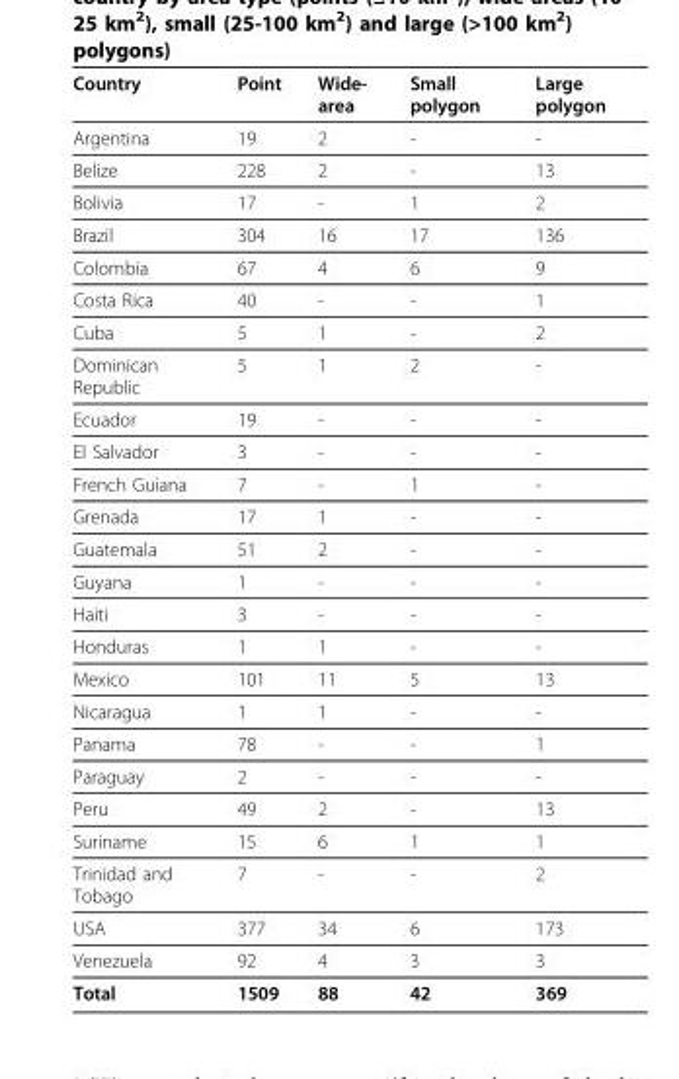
<table><thead><tr><td>Country</td><td>Point</td><td>Wide- area</td><td>Small polygon</td><td>Large polygon</td></tr></thead><tbody><tr><td>Argentina</td><td>19</td><td>2</td><td>-</td><td>-</td></tr><tr><td>Belize</td><td>228</td><td>2</td><td>-</td><td>13</td></tr><tr><td>Bolivia</td><td>17</td><td>-</td><td>1</td><td>2</td></tr><tr><td>Brazil</td><td>304</td><td>16</td><td>17</td><td>136</td></tr><tr><td>Colombia</td><td>67</td><td>4</td><td>6</td><td>9</td></tr><tr><td>Costa Rica</td><td>40</td><td>-</td><td>-</td><td>1</td></tr><tr><td>Cuba</td><td>5</td><td>1</td><td>-</td><td>2</td></tr><tr><td>Dominican Republic</td><td>5</td><td>1</td><td>2</td><td>-</td></tr><tr><td>Ecuador</td><td>19</td><td>-</td><td>-</td><td>-</td></tr><tr><td>El Salvador</td><td>3</td><td>-</td><td>-</td><td>-</td></tr><tr><td>French Guiana</td><td>7</td><td>-</td><td>1</td><td>-</td></tr><tr><td>Grenada</td><td>17</td><td>1</td><td>-</td><td>-</td></tr><tr><td>Guatemala</td><td>51</td><td>2</td><td>-</td><td>-</td></tr><tr><td>Guyana</td><td>1</td><td>-</td><td>-</td><td>-</td></tr><tr><td>Haiti</td><td>3</td><td>-</td><td>-</td><td>-</td></tr><tr><td>Honduras</td><td>1</td><td>1</td><td>-</td><td>-</td></tr><tr><td>Mexico</td><td>101</td><td>11</td><td>5</td><td>13</td></tr><tr><td>Nicaragua</td><td>1</td><td>1</td><td>-</td><td>-</td></tr><tr><td>Panama</td><td>78</td><td>-</td><td>-</td><td>1</td></tr><tr><td>Paraguay</td><td>2</td><td>-</td><td>-</td><td>-</td></tr><tr><td>Peru</td><td>49</td><td>2</td><td>-</td><td>13</td></tr><tr><td>Suriname</td><td>15</td><td>6</td><td>1</td><td>1</td></tr><tr><td>Trinidad and Tobago</td><td>7</td><td>-</td><td>-</td><td>2</td></tr><tr><td>USA</td><td>377</td><td>34</td><td>6</td><td>173</td></tr><tr><td>Venezuela</td><td>92</td><td>4</td><td>3</td><td>3</td></tr><tr><td>Total</td><td>1509</td><td>88</td><td>42</td><td>369</td></tr></tbody></table>